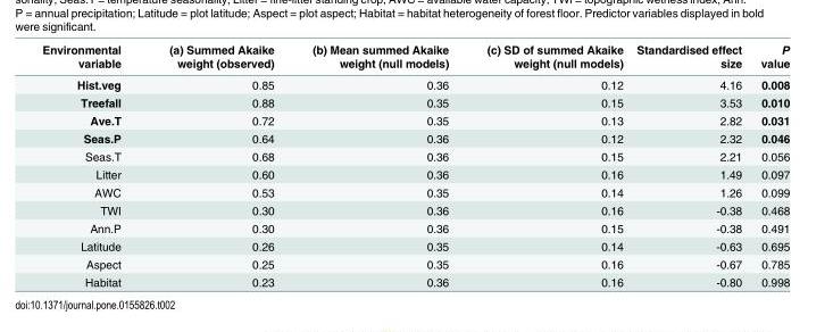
<table><thead><tr><td>Environmental variable</td><td>(a) Summed Akaike weight (observed)</td><td>(b) Mean summed Akaike weight (null models)</td><td>(c) SD of summed Akaike weight (null models)</td><td>Standardised effect size</td><td>P value</td></tr></thead><tbody><tr><td>Hist.veg</td><td>0.85</td><td>0.36</td><td>0.12</td><td>4.16</td><td>0.008</td></tr><tr><td>Treefall</td><td>0.88</td><td>0.35</td><td>0.15</td><td>3.53</td><td>0.010</td></tr><tr><td>Ave.T</td><td>0.72</td><td>0.35</td><td>0.13</td><td>2.82</td><td>0.031</td></tr><tr><td>Seas.P</td><td>0.64</td><td>0.36</td><td>0.12</td><td>2.32</td><td>0.046</td></tr><tr><td>Seas.T</td><td>0.68</td><td>0.36</td><td>0.15</td><td>2.21</td><td>0.056</td></tr><tr><td>Litter</td><td>0.60</td><td>0.36</td><td>0.16</td><td>1.49</td><td>0.097</td></tr><tr><td>AWC</td><td>0.53</td><td>0.35</td><td>0.14</td><td>1.26</td><td>0.099</td></tr><tr><td>TWI</td><td>0.30</td><td>0.36</td><td>0.16</td><td>-0.38</td><td>0.468</td></tr><tr><td>Ann.P</td><td>0.30</td><td>0.36</td><td>0.15</td><td>-0.38</td><td>0.491</td></tr><tr><td>Latitude</td><td>0.26</td><td>0.35</td><td>0.14</td><td>-0.63</td><td>0.695</td></tr><tr><td>Aspect</td><td>0.25</td><td>0.35</td><td>0.16</td><td>-0.67</td><td>0.785</td></tr><tr><td>Habitat</td><td>0.23</td><td>0.36</td><td>0.16</td><td>-0.80</td><td>0.998</td></tr></tbody></table>